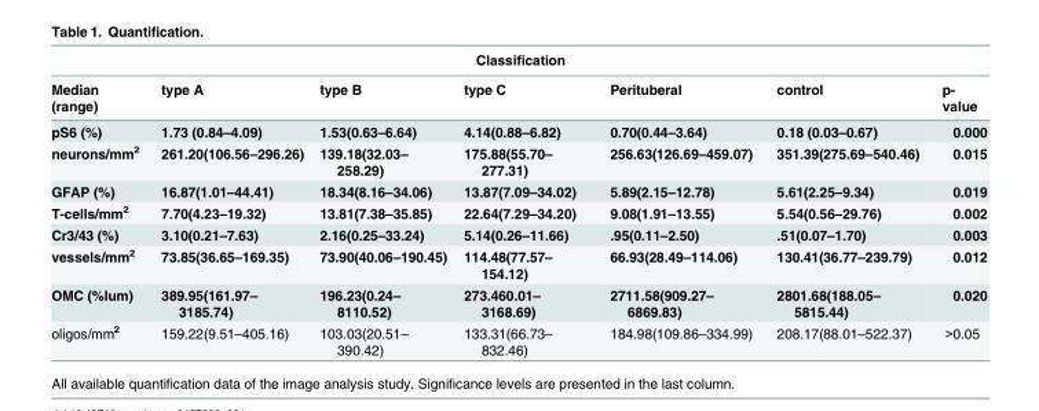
<table><thead><tr><td colspan="7">Classification</td></tr><tr><td>Median (range)</td><td>type A</td><td>type B</td><td>type C</td><td>Perituberal</td><td>control</td><td>p- value</td></tr></thead><tbody><tr><td>pS6 (%)</td><td>1.73 (0.84–4.09)</td><td>1.53(0.63–6.64)</td><td>4.14(0.88–6.82)</td><td>0.70(0.44–3.64)</td><td>0.18 (0.03–0.67)</td><td>0.000</td></tr><tr><td>neurons/mm<sup>2</sup></td><td>261.20(106.56–296.26)</td><td>139.18(32.03– 258.29)</td><td>175.88(55.70– 277.31)</td><td>256.63(126.69–459.07)</td><td>351.39(275.69–540.46)</td><td>0.015</td></tr><tr><td>GFAP (%)</td><td>16.87(1.01–44.41)</td><td>18.34(8.16–34.06)</td><td>13.87(7.09–34.02)</td><td>5.89(2.15–12.78)</td><td>5.61(2.25–9.34)</td><td>0.019</td></tr><tr><td>T-cells/mm<sup>2</sup></td><td>7.70(4.23–19.32)</td><td>13.81(7.38–35.85)</td><td>22.64(7.29–34.20)</td><td>9.08(1.91–13.55)</td><td>5.54(0.56–29.76)</td><td>0.002</td></tr><tr><td>Cr3/43 (%)</td><td>3.10(0.21–7.63)</td><td>2.16(0.25–33.24)</td><td>5.14(0.26–11.66)</td><td>.95(0.11–2.50)</td><td>.51(0.07–1.70)</td><td>0.003</td></tr><tr><td>vessels/mm<sup>2</sup></td><td>73.85(36.65–169.35)</td><td>73.90(40.06–190.45)</td><td>114.48(77.57– 154.12)</td><td>66.93(28.49–114.06)</td><td>130.41(36.77–239.79)</td><td>0.012</td></tr><tr><td>OMC (%lum)</td><td>389.95(161.97– 3185.74)</td><td>196.23(0.24– 8110.52)</td><td>273.460.01– 3168.69)</td><td>2711.58(909.27– 6869.83)</td><td>2801.68(188.05– 5815.44)</td><td>0.020</td></tr><tr><td>oligos/mm<sup>2</sup></td><td>159.22(9.51–405.16)</td><td>103.03(20.51– 390.42)</td><td>133.31(66.73– 832.46)</td><td>184.98(109.86–334.99)</td><td>208.17(88.01–522.37)</td><td>&gt;0.05</td></tr></tbody></table>